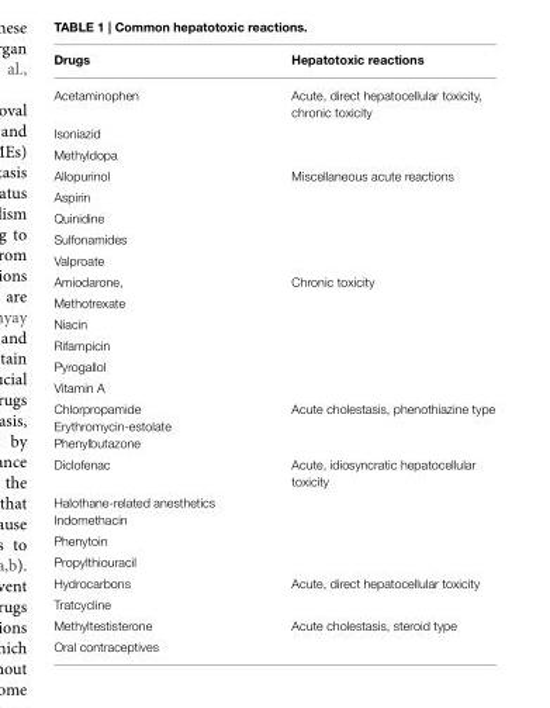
<table><thead><tr><td>Drugs</td><td>Hepatotoxic reactions</td></tr></thead><tbody><tr><td>Acetaminophen</td><td>Acute, direct hepatocellular toxicity, chronic toxicity</td></tr><tr><td colspan="2">Isoniazid</td></tr><tr><td colspan="2">Methyldopa</td></tr><tr><td>Allopurinol</td><td>Miscellaneous acute reactions</td></tr><tr><td colspan="2">Aspirin</td></tr><tr><td colspan="2">Quinidine</td></tr><tr><td colspan="2">Sulfonamides</td></tr><tr><td colspan="2">Valproate</td></tr><tr><td>Amiodarone,</td><td>Chronic toxicity</td></tr><tr><td colspan="2">Methotrexate</td></tr><tr><td colspan="2">Niacin</td></tr><tr><td colspan="2">Rifampicin</td></tr><tr><td colspan="2">Pyrogallol</td></tr><tr><td colspan="2">Vitamin A</td></tr><tr><td>Chlorpropamide Erythromycin-estolate Phenylbutazone</td><td>Acute cholestasis, phenothiazine type</td></tr><tr><td>Diclofenac</td><td>Acute, idiosyncratic hepatocellular toxicity</td></tr><tr><td colspan="2">Halothane-related anesthetics Indomethacin</td></tr><tr><td colspan="2">Phenytoin</td></tr><tr><td colspan="2">Propylthiouracil</td></tr><tr><td>Hydrocarbons</td><td>Acute, direct hepatocellular toxicity</td></tr><tr><td colspan="2">Tratcycline</td></tr><tr><td>Methyltestisterone</td><td>Acute cholestasis, steroid type</td></tr><tr><td>Oral contraceptives</td><td></td></tr></tbody></table>